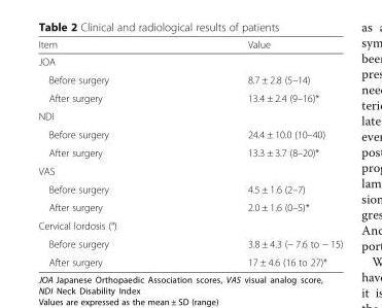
<table><thead><tr><td>Item</td><td>Value</td></tr></thead><tbody><tr><td colspan="2">JOA</td></tr><tr><td>Before surgery</td><td>8.7 ± 2.8 (5–14)</td></tr><tr><td>After surgery</td><td>13.4 ± 2.4 (9–16)*</td></tr><tr><td colspan="2">NDI</td></tr><tr><td>Before surgery</td><td>24.4 ± 10.0 (10–40)</td></tr><tr><td>After surgery</td><td>13.3 ± 3.7 (8–20)*</td></tr><tr><td colspan="2">VAS</td></tr><tr><td>Before surgery</td><td>4.5 ± 1.6 (2–7)</td></tr><tr><td>After surgery</td><td>2.0 ± 1.6 (0–5)*</td></tr><tr><td colspan="2">Cervical lordosis (°)</td></tr><tr><td>Before surgery</td><td>3.8 ± 4.3 (− 7.6 to − 15)</td></tr><tr><td>After surgery</td><td>17 ± 4.6 (16 to 27)*</td></tr></tbody></table>